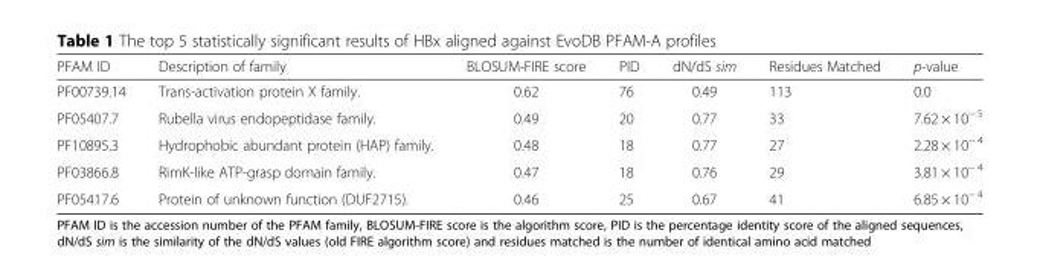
<table><thead><tr><td>PFAM ID</td><td>Description of family</td><td>BLOSUM-FIRE score</td><td>PID</td><td>dN/dS sim</td><td>Residues Matched</td><td>p-value</td></tr></thead><tbody><tr><td>PF00739.14</td><td>Trans-activation protein X family.</td><td>0.62</td><td>76</td><td>0.49</td><td>113</td><td>0.0</td></tr><tr><td>PF05407.7</td><td>Rubella virus endopeptidase family.</td><td>0.49</td><td>20</td><td>0.77</td><td>33</td><td>7.62 × 10<sup>− 5</sup></td></tr><tr><td>PF10895.3</td><td>Hydrophobic abundant protein (HAP) family.</td><td>0.48</td><td>18</td><td>0.77</td><td>27</td><td>2.28 × 10<sup>− 4</sup></td></tr><tr><td>PF03866.8</td><td>RimK-like ATP-grasp domain family.</td><td>0.47</td><td>18</td><td>0.76</td><td>29</td><td>3.81 × 10<sup>− 4</sup></td></tr><tr><td>PF05417.6</td><td>Protein of unknown function (DUF2715).</td><td>0.46</td><td>25</td><td>0.67</td><td>41</td><td>6.85 × 10<sup>− 4</sup></td></tr></tbody></table>